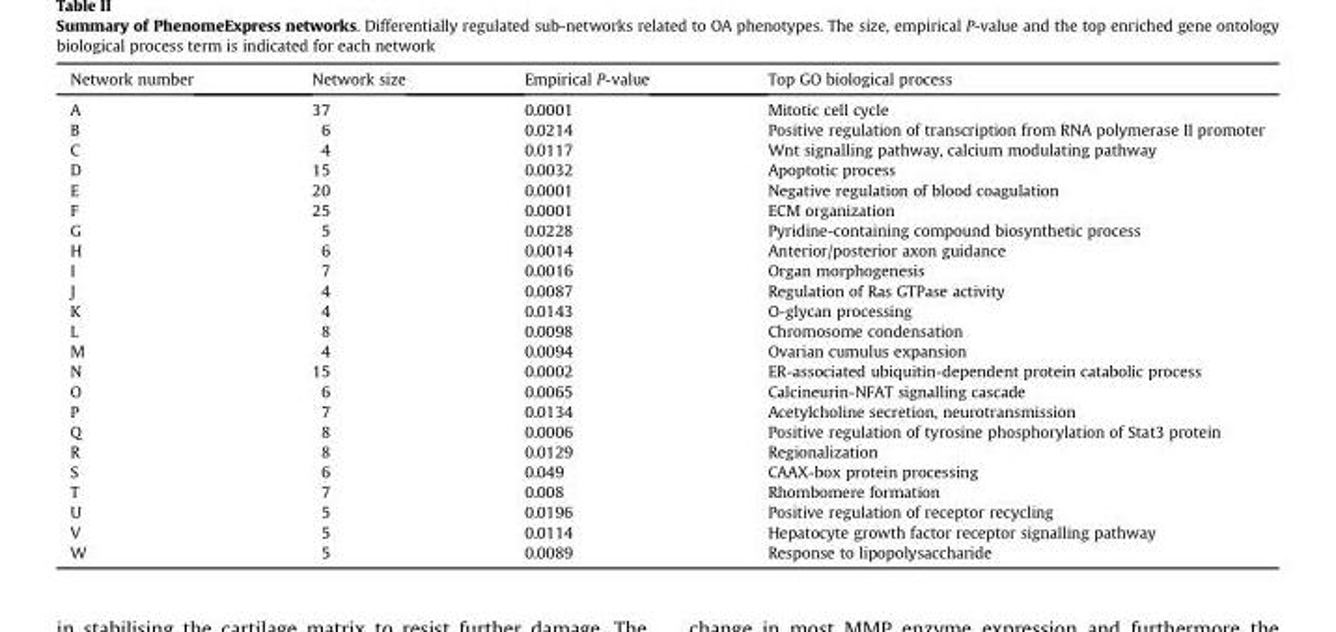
<table><thead><tr><td>Network number</td><td>Network size</td><td>Empirical P-value</td><td>Top GO biological process</td></tr></thead><tbody><tr><td>A</td><td>37</td><td>0.0001</td><td>Mitotic cell cycle</td></tr><tr><td>B</td><td>6</td><td>0.0214</td><td>Positive regulation of transcription from RNA polymerase II promoter</td></tr><tr><td>C</td><td>4</td><td>0.0117</td><td>Wnt signalling pathway, calcium modulating pathway</td></tr><tr><td>D</td><td>15</td><td>0.0032</td><td>Apoptotic process</td></tr><tr><td>E</td><td>20</td><td>0.0001</td><td>Negative regulation of blood coagulation</td></tr><tr><td>F</td><td>25</td><td>0.0001</td><td>ECM organization</td></tr><tr><td>G</td><td>5</td><td>0.0228</td><td>Pyridine-containing compound biosynthetic process</td></tr><tr><td>H</td><td>6</td><td>0.0014</td><td>Anterior/posterior axon guidance</td></tr><tr><td>I</td><td>7</td><td>0.0016</td><td>Organ morphogenesis</td></tr><tr><td>J</td><td>4</td><td>0.0087</td><td>Regulation of Ras GTPase activity</td></tr><tr><td>K</td><td>4</td><td>0.0143</td><td>O-glycan processing</td></tr><tr><td>L</td><td>8</td><td>0.0098</td><td>Chromosome condensation</td></tr><tr><td>M</td><td>4</td><td>0.0094</td><td>Ovarian cumulus expansion</td></tr><tr><td>N</td><td>15</td><td>0.0002</td><td>ER-associated ubiquitin-dependent protein catabolic process</td></tr><tr><td>O</td><td>6</td><td>0.0065</td><td>Calcineurin-NFAT signalling cascade</td></tr><tr><td>P</td><td>7</td><td>0.0134</td><td>Acetylcholine secretion, neurotransmission</td></tr><tr><td>Q</td><td>8</td><td>0.0006</td><td>Positive regulation of tyrosine phosphorylation of Stat3 protein</td></tr><tr><td>R</td><td>8</td><td>0.0129</td><td>Regionalization</td></tr><tr><td>S</td><td>6</td><td>0.049</td><td>CAAX-box protein processing</td></tr><tr><td>T</td><td>7</td><td>0.008</td><td>Rhombomere formation</td></tr><tr><td>U</td><td>5</td><td>0.0196</td><td>Positive regulation of receptor recycling</td></tr><tr><td>V</td><td>5</td><td>0.0114</td><td>Hepatocyte growth factor receptor signalling pathway</td></tr><tr><td>W</td><td>5</td><td>0.0089</td><td>Response to lipopolysaccharide</td></tr></tbody></table>